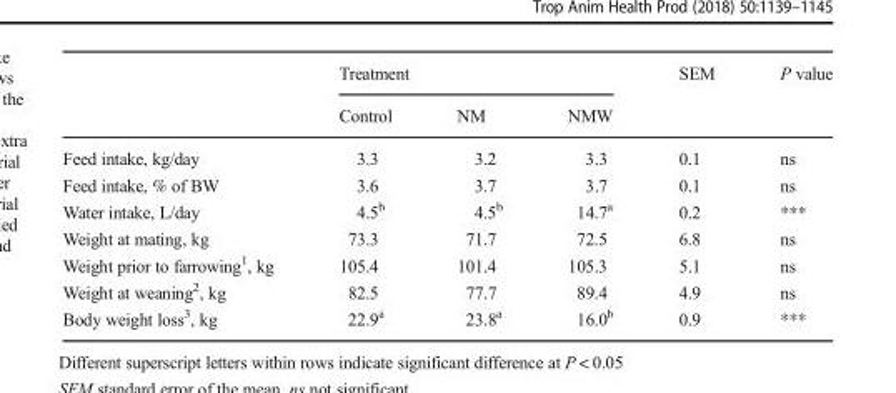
<table><thead><tr><td rowspan="2"></td><td colspan="3">Treatment</td><td rowspan="2">SEM</td><td rowspan="2">P value</td></tr><tr><td>Control</td><td>NM</td><td>NMW</td></tr></thead><tbody><tr><td>Feed intake, kg/day</td><td>3.3</td><td>3.2</td><td>3.3</td><td>0.1</td><td>ns</td></tr><tr><td>Feed intake, % of BW</td><td>3.6</td><td>3.7</td><td>3.7</td><td>0.1</td><td>ns</td></tr><tr><td>Water intake, L/day</td><td>4.5<sup>b</sup></td><td>4.5<sup>b</sup></td><td>14.7<sup>a</sup></td><td>0.2</td><td>***</td></tr><tr><td>Weight at mating, kg</td><td>73.3</td><td>71.7</td><td>72.5</td><td>6.8</td><td>ns</td></tr><tr><td>Weight prior to farrowing<sup>1</sup>, kg</td><td>105.4</td><td>101.4</td><td>105.3</td><td>5.1</td><td>ns</td></tr><tr><td>Weight at weaning<sup>2</sup>, kg</td><td>82.5</td><td>77.7</td><td>89.4</td><td>4.9</td><td>ns</td></tr><tr><td>Body weight loss<sup>3</sup>, kg</td><td>22.9<sup>a</sup></td><td>23.8<sup>a</sup></td><td>16.0<sup>b</sup></td><td>0.9</td><td>***</td></tr></tbody></table>